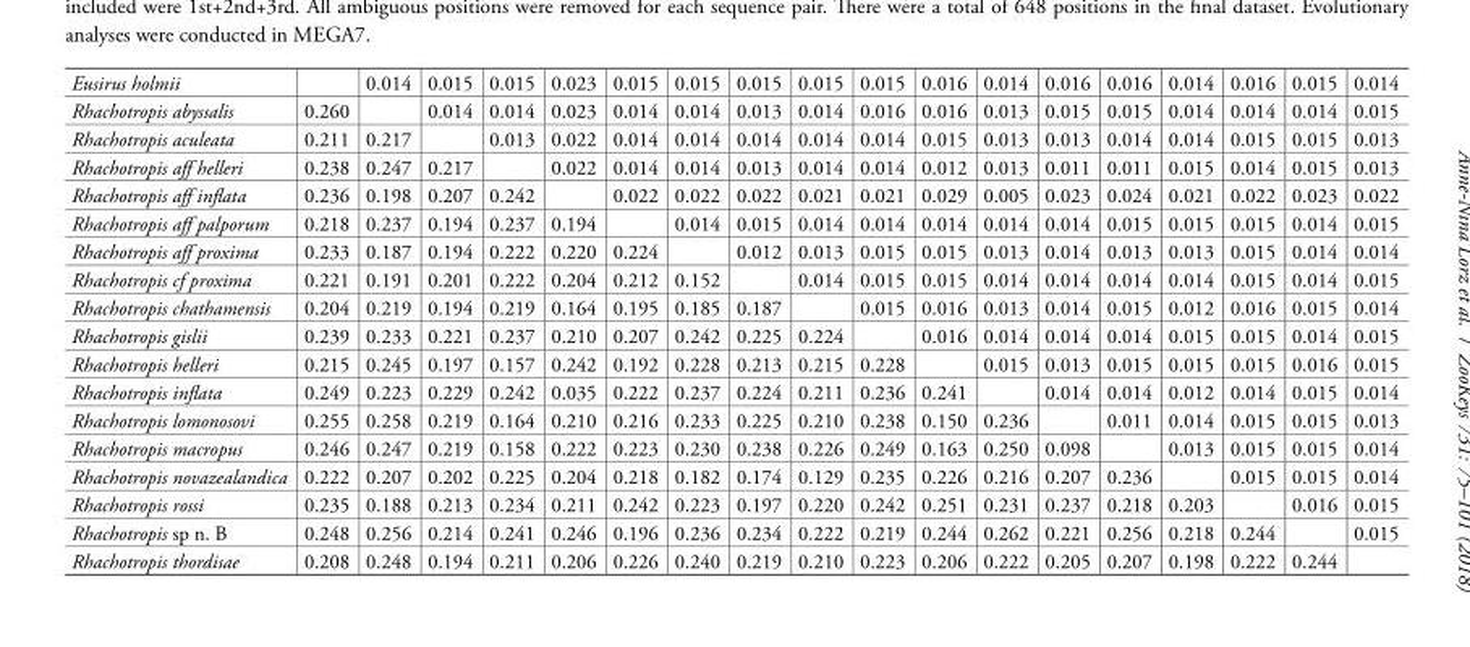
<table><tbody><tr><td>Eusirus holmii</td><td></td><td>0.014</td><td>0.015</td><td>0.015</td><td>0.023</td><td>0.015</td><td>0.015</td><td>0.015</td><td>0.015</td><td>0.015</td><td>0.016</td><td>0.014</td><td>0.016</td><td>0.016</td><td>0.014</td><td>0.016</td><td>0.015</td><td>0.014</td></tr><tr><td>Rhachotropis abyssalis</td><td>0.260</td><td></td><td>0.014</td><td>0.014</td><td>0.023</td><td>0.014</td><td>0.014</td><td>0.013</td><td>0.014</td><td>0.016</td><td>0.016</td><td>0.013</td><td>0.015</td><td>0.015</td><td>0.014</td><td>0.014</td><td>0.014</td><td>0.015</td></tr><tr><td>Rhachotropis aculeata</td><td>0.211</td><td>0.217</td><td></td><td>0.013</td><td>0.022</td><td>0.014</td><td>0.014</td><td>0.014</td><td>0.014</td><td>0.014</td><td>0.015</td><td>0.013</td><td>0.013</td><td>0.014</td><td>0.014</td><td>0.015</td><td>0.015</td><td>0.013</td></tr><tr><td>Rhachotropis aff helleri</td><td>0.238</td><td>0.247</td><td>0.217</td><td></td><td>0.022</td><td>0.014</td><td>0.014</td><td>0.013</td><td>0.014</td><td>0.014</td><td>0.012</td><td>0.013</td><td>0.011</td><td>0.011</td><td>0.015</td><td>0.014</td><td>0.015</td><td>0.013</td></tr><tr><td>Rhachotropis aff inflata</td><td>0.236</td><td>0.198</td><td>0.207</td><td>0.242</td><td></td><td>0.022</td><td>0.022</td><td>0.022</td><td>0.021</td><td>0.021</td><td>0.029</td><td>0.005</td><td>0.023</td><td>0.024</td><td>0.021</td><td>0.022</td><td>0.023</td><td>0.022</td></tr><tr><td>Rhachotropis aff palporum</td><td>0.218</td><td>0.237</td><td>0.194</td><td>0.237</td><td>0.194</td><td></td><td>0.014</td><td>0.015</td><td>0.014</td><td>0.014</td><td>0.014</td><td>0.014</td><td>0.014</td><td>0.015</td><td>0.015</td><td>0.015</td><td>0.014</td><td>0.015</td></tr><tr><td>Rhachotropis aff proxima</td><td>0.233</td><td>0.187</td><td>0.194</td><td>0.222</td><td>0.220</td><td>0.224</td><td></td><td>0.012</td><td>0.013</td><td>0.015</td><td>0.015</td><td>0.013</td><td>0.014</td><td>0.013</td><td>0.013</td><td>0.015</td><td>0.014</td><td>0.014</td></tr><tr><td>Rhachotropis cf proxima</td><td>0.221</td><td>0.191</td><td>0.201</td><td>0.222</td><td>0.204</td><td>0.212</td><td>0.152</td><td></td><td>0.014</td><td>0.015</td><td>0.015</td><td>0.014</td><td>0.014</td><td>0.014</td><td>0.014</td><td>0.015</td><td>0.014</td><td>0.015</td></tr><tr><td>Rhachotropis chathamensis</td><td>0.204</td><td>0.219</td><td>0.194</td><td>0.219</td><td>0.164</td><td>0.195</td><td>0.185</td><td>0.187</td><td></td><td>0.015</td><td>0.016</td><td>0.013</td><td>0.014</td><td>0.015</td><td>0.012</td><td>0.016</td><td>0.015</td><td>0.014</td></tr><tr><td>Rhachotropis gislii</td><td>0.239</td><td>0.233</td><td>0.221</td><td>0.237</td><td>0.210</td><td>0.207</td><td>0.242</td><td>0.225</td><td>0.224</td><td></td><td>0.016</td><td>0.014</td><td>0.014</td><td>0.014</td><td>0.015</td><td>0.015</td><td>0.014</td><td>0.015</td></tr><tr><td>Rhachotropis helleri</td><td>0.215</td><td>0.245</td><td>0.197</td><td>0.157</td><td>0.242</td><td>0.192</td><td>0.228</td><td>0.213</td><td>0.215</td><td>0.228</td><td></td><td>0.015</td><td>0.013</td><td>0.015</td><td>0.015</td><td>0.015</td><td>0.016</td><td>0.015</td></tr><tr><td>Rhachotropis inflata</td><td>0.249</td><td>0.223</td><td>0.229</td><td>0.242</td><td>0.035</td><td>0.222</td><td>0.237</td><td>0.224</td><td>0.211</td><td>0.236</td><td>0.241</td><td></td><td>0.014</td><td>0.014</td><td>0.012</td><td>0.014</td><td>0.015</td><td>0.014</td></tr><tr><td>Rhachotropis lomonosovi</td><td>0.255</td><td>0.258</td><td>0.219</td><td>0.164</td><td>0.210</td><td>0.216</td><td>0.233</td><td>0.225</td><td>0.210</td><td>0.238</td><td>0.150</td><td>0.236</td><td></td><td>0.011</td><td>0.014</td><td>0.015</td><td>0.015</td><td>0.013</td></tr><tr><td>Rhachotropis macropus</td><td>0.246</td><td>0.247</td><td>0.219</td><td>0.158</td><td>0.222</td><td>0.223</td><td>0.230</td><td>0.238</td><td>0.226</td><td>0.249</td><td>0.163</td><td>0.250</td><td>0.098</td><td></td><td>0.013</td><td>0.015</td><td>0.015</td><td>0.014</td></tr><tr><td>Rhachotropis novazealandica</td><td>0.222</td><td>0.207</td><td>0.202</td><td>0.225</td><td>0.204</td><td>0.218</td><td>0.182</td><td>0.174</td><td>0.129</td><td>0.235</td><td>0.226</td><td>0.216</td><td>0.207</td><td>0.236</td><td></td><td>0.015</td><td>0.015</td><td>0.014</td></tr><tr><td>Rhachotropis rossi</td><td>0.235</td><td>0.188</td><td>0.213</td><td>0.234</td><td>0.211</td><td>0.242</td><td>0.223</td><td>0.197</td><td>0.220</td><td>0.242</td><td>0.251</td><td>0.231</td><td>0.237</td><td>0.218</td><td>0.203</td><td></td><td>0.016</td><td>0.015</td></tr><tr><td>Rhachotropis sp n. B</td><td>0.248</td><td>0.256</td><td>0.214</td><td>0.241</td><td>0.246</td><td>0.196</td><td>0.236</td><td>0.234</td><td>0.222</td><td>0.219</td><td>0.244</td><td>0.262</td><td>0.221</td><td>0.256</td><td>0.218</td><td>0.244</td><td></td><td>0.015</td></tr><tr><td>Rhachotropis thordisae</td><td>0.208</td><td>0.248</td><td>0.194</td><td>0.211</td><td>0.206</td><td>0.226</td><td>0.240</td><td>0.219</td><td>0.210</td><td>0.223</td><td>0.206</td><td>0.222</td><td>0.205</td><td>0.207</td><td>0.198</td><td>0.222</td><td>0.244</td><td></td></tr></tbody></table>